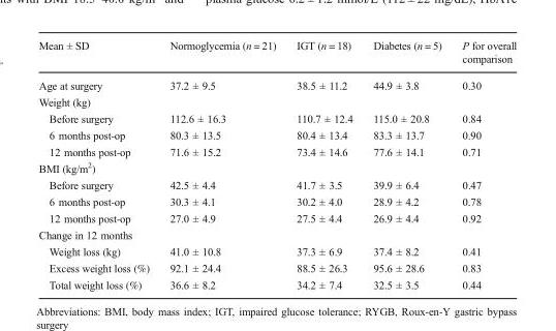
<table><thead><tr><td>Mean ± SD</td><td>Normoglycemia (n = 21)</td><td>IGT (n = 18)</td><td>Diabetes (n = 5)</td><td>P for overall comparison</td></tr></thead><tbody><tr><td>Age at surgery</td><td>37.2 ± 9.5</td><td>38.5 ± 11.2</td><td>44.9 ± 3.8</td><td>0.30</td></tr><tr><td colspan="5">Weight (kg)</td></tr><tr><td>Before surgery</td><td>112.6 ± 16.3</td><td>110.7 ± 12.4</td><td>115.0 ± 20.8</td><td>0.84</td></tr><tr><td>6 months post-op</td><td>80.3 ± 13.5</td><td>80.4 ± 13.4</td><td>83.3 ± 13.7</td><td>0.90</td></tr><tr><td>12 months post-op</td><td>71.6 ± 15.2</td><td>73.4 ± 14.6</td><td>77.6 ± 14.1</td><td>0.71</td></tr><tr><td colspan="5">BMI (kg/m<sup>2</sup>)</td></tr><tr><td>Before surgery</td><td>42.5 ± 4.4</td><td>41.7 ± 3.5</td><td>39.9 ± 6.4</td><td>0.47</td></tr><tr><td>6 months post-op</td><td>30.3 ± 4.1</td><td>30.2 ± 4.0</td><td>28.9 ± 4.2</td><td>0.78</td></tr><tr><td>12 months post-op</td><td>27.0 ± 4.9</td><td>27.5 ± 4.4</td><td>26.9 ± 4.4</td><td>0.92</td></tr><tr><td colspan="5">Change in 12 months</td></tr><tr><td>Weight loss (kg)</td><td>41.0 ± 10.8</td><td>37.3 ± 6.9</td><td>37.4 ± 8.2</td><td>0.41</td></tr><tr><td>Excess weight loss (%)</td><td>92.1 ± 24.4</td><td>88.5 ± 26.3</td><td>95.6 ± 28.6</td><td>0.83</td></tr><tr><td>Total weight loss (%)</td><td>36.6 ± 8.2</td><td>34.2 ± 7.4</td><td>32.5 ± 3.5</td><td>0.44</td></tr></tbody></table>